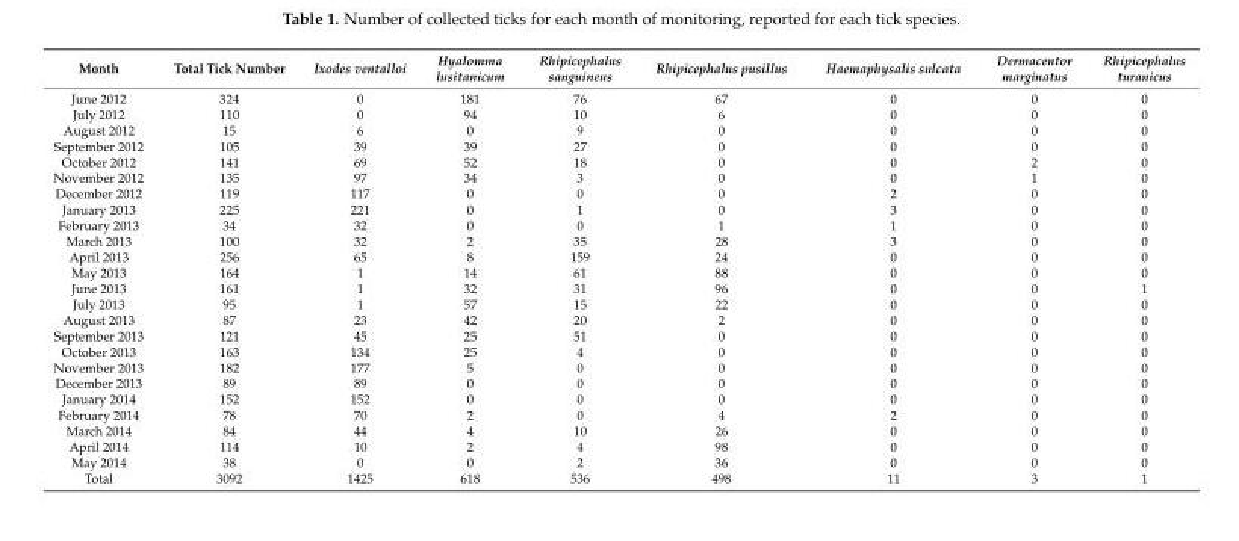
<table><thead><tr><td>Month</td><td>Total Tick Number</td><td>Ixodes ventalloi</td><td>Hyalomma lusitanicum</td><td>Rhipicephalus sanguineus</td><td>Rhipicephalus pusillus</td><td>Haemaphysalis sulcata</td><td>Dermacentor marginatus</td><td>Rhipicephalus turanicus</td></tr></thead><tbody><tr><td>June 2012</td><td>324</td><td>0</td><td>181</td><td>76</td><td>67</td><td>0</td><td>0</td><td>0</td></tr><tr><td>July 2012</td><td>110</td><td>0</td><td>94</td><td>10</td><td>6</td><td>0</td><td>0</td><td>0</td></tr><tr><td>August 2012</td><td>15</td><td>6</td><td>0</td><td>9</td><td>0</td><td>0</td><td>0</td><td>0</td></tr><tr><td>September 2012</td><td>105</td><td>39</td><td>39</td><td>27</td><td>0</td><td>0</td><td>0</td><td>0</td></tr><tr><td>October 2012</td><td>141</td><td>69</td><td>52</td><td>18</td><td>0</td><td>0</td><td>2</td><td>0</td></tr><tr><td>November 2012</td><td>135</td><td>97</td><td>34</td><td>3</td><td>0</td><td>0</td><td>1</td><td>0</td></tr><tr><td>December 2012</td><td>119</td><td>117</td><td>0</td><td>0</td><td>0</td><td>2</td><td>0</td><td>0</td></tr><tr><td>January 2013</td><td>225</td><td>221</td><td>0</td><td>1</td><td>0</td><td>3</td><td>0</td><td>0</td></tr><tr><td>February 2013</td><td>34</td><td>32</td><td>0</td><td>0</td><td>1</td><td>1</td><td>0</td><td>0</td></tr><tr><td>March 2013</td><td>100</td><td>32</td><td>2</td><td>35</td><td>28</td><td>3</td><td>0</td><td>0</td></tr><tr><td>April 2013</td><td>256</td><td>65</td><td>8</td><td>159</td><td>24</td><td>0</td><td>0</td><td>0</td></tr><tr><td>May 2013</td><td>164</td><td>1</td><td>14</td><td>61</td><td>88</td><td>0</td><td>0</td><td>0</td></tr><tr><td>June 2013</td><td>161</td><td>1</td><td>32</td><td>31</td><td>96</td><td>0</td><td>0</td><td>1</td></tr><tr><td>July 2013</td><td>95</td><td>1</td><td>57</td><td>15</td><td>22</td><td>0</td><td>0</td><td>0</td></tr><tr><td>August 2013</td><td>87</td><td>23</td><td>42</td><td>20</td><td>2</td><td>0</td><td>0</td><td>0</td></tr><tr><td>September 2013</td><td>121</td><td>45</td><td>25</td><td>51</td><td>0</td><td>0</td><td>0</td><td>0</td></tr><tr><td>October 2013</td><td>163</td><td>134</td><td>25</td><td>4</td><td>0</td><td>0</td><td>0</td><td>0</td></tr><tr><td>November 2013</td><td>182</td><td>177</td><td>5</td><td>0</td><td>0</td><td>0</td><td>0</td><td>0</td></tr><tr><td>December 2013</td><td>89</td><td>89</td><td>0</td><td>0</td><td>0</td><td>0</td><td>0</td><td>0</td></tr><tr><td>January 2014</td><td>152</td><td>152</td><td>0</td><td>0</td><td>0</td><td>0</td><td>0</td><td>0</td></tr><tr><td>February 2014</td><td>78</td><td>70</td><td>2</td><td>0</td><td>4</td><td>2</td><td>0</td><td>0</td></tr><tr><td>March 2014</td><td>84</td><td>44</td><td>4</td><td>10</td><td>26</td><td>0</td><td>0</td><td>0</td></tr><tr><td>April 2014</td><td>114</td><td>10</td><td>2</td><td>4</td><td>98</td><td>0</td><td>0</td><td>0</td></tr><tr><td>May 2014</td><td>38</td><td>0</td><td>0</td><td>2</td><td>36</td><td>0</td><td>0</td><td>0</td></tr><tr><td>Total</td><td>3092</td><td>1425</td><td>618</td><td>536</td><td>498</td><td>11</td><td>3</td><td>1</td></tr></tbody></table>